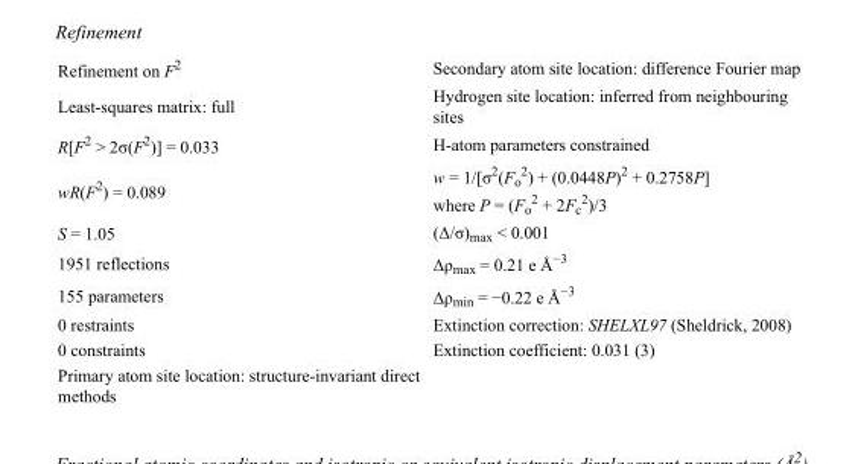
<table><tbody><tr><td>Refinement on F<sup>2</sup></td><td>Secondary atom site location: difference Fourier map</td></tr><tr><td>Least-squares matrix: full</td><td>Hydrogen site location: inferred from neighbouring sites</td></tr><tr><td>R[F<sup>2</sup> &gt; 2σ(F<sup>2</sup>)] = 0.033</td><td>H-atom parameters constrained</td></tr><tr><td>wR(F<sup>2</sup>) = 0.089</td><td>w = 1/[σ<sup>2</sup>(F<sub>o</sub> <sup>2</sup>) + (0.0448P)<sup>2</sup> + 0.2758P] where P = (F<sub>o</sub> <sup>2</sup> + 2F<sub>c</sub> <sup>2</sup>)/3</td></tr><tr><td>S = 1.05</td><td>(Δ/σ)<sub>max</sub> &lt; 0.001</td></tr><tr><td>1951 reflections</td><td>Δρ<sub>max</sub> = 0.21 e Å<sup>−3</sup></td></tr><tr><td>155 parameters</td><td>Δρ<sub>min</sub> = −0.22 e Å<sup>−3</sup></td></tr><tr><td>0 restraints</td><td>Extinction correction: SHELXL97 (Sheldrick, 2008)</td></tr><tr><td>0 constraints</td><td>Extinction coefficient: 0.031 (3)</td></tr><tr><td>Primary atom site location: structure-invariant direct methods</td><td></td></tr></tbody></table>